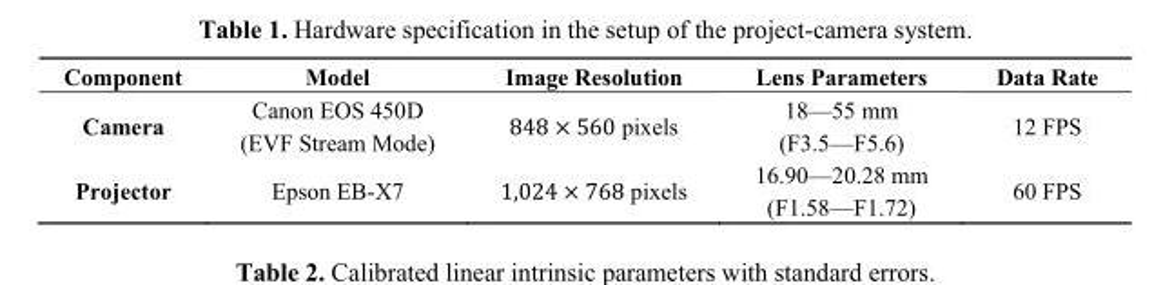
<table><thead><tr><td>Component</td><td>Model</td><td>Image Resolution</td><td>Lens Parameters</td><td>Data Rate</td></tr></thead><tbody><tr><td>Camera</td><td>Canon EOS 450D (EVF Stream Mode)</td><td>848 × 560 pixels</td><td>18—55 mm (F3.5—F5.6)</td><td>12 FPS</td></tr><tr><td>Projector</td><td>Epson EB-X7</td><td>1,024 × 768 pixels</td><td>16.90—20.28 mm (F1.58—F1.72)</td><td>60 FPS</td></tr></tbody></table>